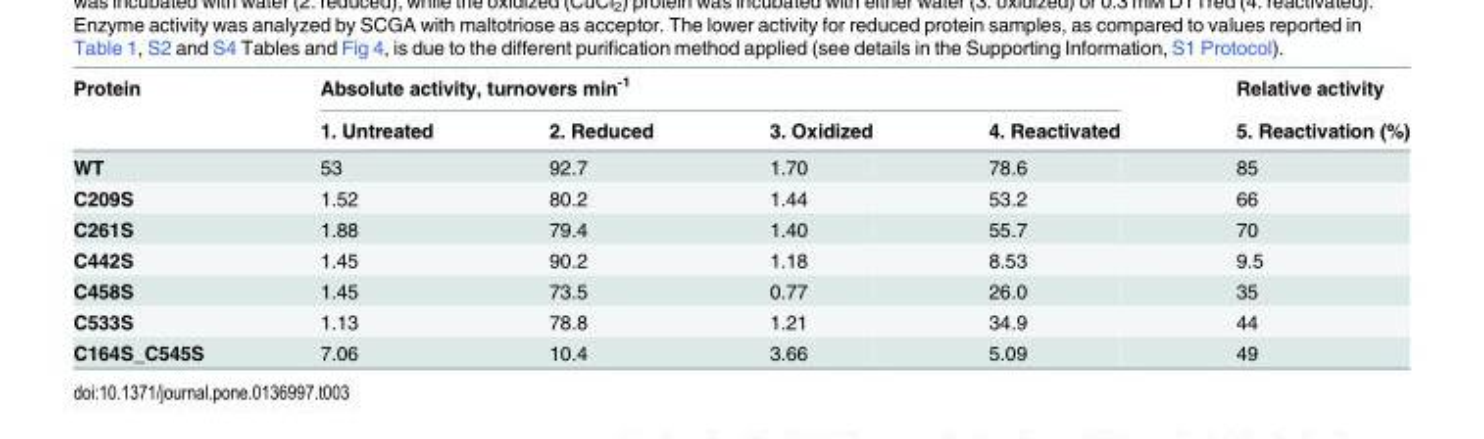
<table><thead><tr><td rowspan="2">Protein</td><td colspan="4">Absolute activity, turnovers min<sup>-1</sup></td><td rowspan="2">Relative activity 5. Reactivation (%)</td></tr><tr><td>1. Untreated</td><td>2. Reduced</td><td>3. Oxidized</td><td>4. Reactivated</td></tr></thead><tbody><tr><td>WT</td><td>53</td><td>92.7</td><td>1.70</td><td>78.6</td><td>85</td></tr><tr><td>C209S</td><td>1.52</td><td>80.2</td><td>1.44</td><td>53.2</td><td>66</td></tr><tr><td>C261S</td><td>1.88</td><td>79.4</td><td>1.40</td><td>55.7</td><td>70</td></tr><tr><td>C442S</td><td>1.45</td><td>90.2</td><td>1.18</td><td>8.53</td><td>9.5</td></tr><tr><td>C458S</td><td>1.45</td><td>73.5</td><td>0.77</td><td>26.0</td><td>35</td></tr><tr><td>C533S</td><td>1.13</td><td>78.8</td><td>1.21</td><td>34.9</td><td>44</td></tr><tr><td>C164S_C545S</td><td>7.06</td><td>10.4</td><td>3.66</td><td>5.09</td><td>49</td></tr></tbody></table>